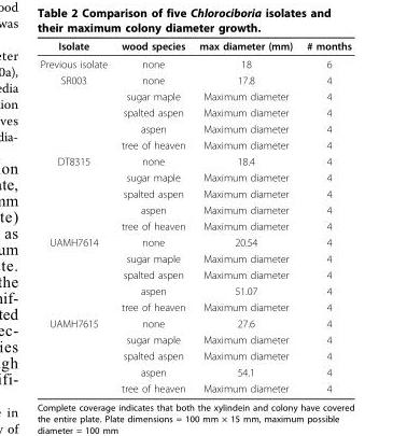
<table><thead><tr><td>Isolate</td><td>wood species</td><td>max diameter (mm)</td><td># months</td></tr></thead><tbody><tr><td>Previous isolate</td><td>none</td><td>18</td><td>6</td></tr><tr><td rowspan="5">SR003</td><td>none</td><td>17.8</td><td>4</td></tr><tr><td>sugar maple</td><td>Maximum diameter</td><td>4</td></tr><tr><td>spalted aspen</td><td>Maximum diameter</td><td>4</td></tr><tr><td>aspen</td><td>Maximum diameter</td><td>4</td></tr><tr><td>tree of heaven</td><td>Maximum diameter</td><td>4</td></tr><tr><td rowspan="5">DT8315</td><td>none</td><td>18.4</td><td>4</td></tr><tr><td>sugar maple</td><td>Maximum diameter</td><td>4</td></tr><tr><td>spalted aspen</td><td>Maximum diameter</td><td>4</td></tr><tr><td>aspen</td><td>Maximum diameter</td><td>4</td></tr><tr><td>tree of heaven</td><td>Maximum diameter</td><td>4</td></tr><tr><td rowspan="5">UAMH7614</td><td>none</td><td>20.54</td><td>4</td></tr><tr><td>sugar maple</td><td>Maximum diameter</td><td>4</td></tr><tr><td>spalted aspen</td><td>Maximum diameter</td><td>4</td></tr><tr><td>aspen</td><td>51.07</td><td>4</td></tr><tr><td>tree of heaven</td><td>Maximum diameter</td><td>4</td></tr><tr><td rowspan="5">UAMH7615</td><td>none</td><td>27.6</td><td>4</td></tr><tr><td>sugar maple</td><td>Maximum diameter</td><td>4</td></tr><tr><td>spalted aspen</td><td>Maximum diameter</td><td>4</td></tr><tr><td>aspen</td><td>54.1</td><td>4</td></tr><tr><td>tree of heaven</td><td>Maximum diameter</td><td>4</td></tr></tbody></table>